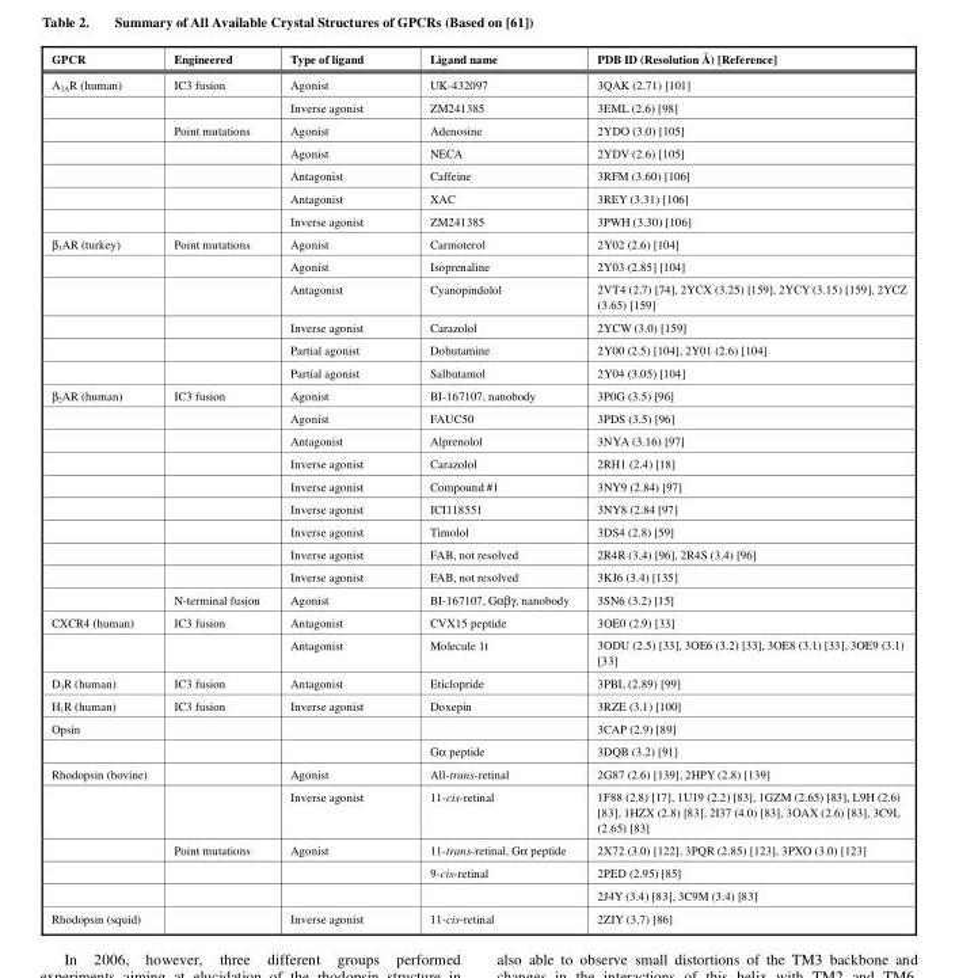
<table><thead><tr><td>GPCR</td><td>Engineered</td><td>Type of ligand</td><td>Ligand name</td><td>PDB ID (Resolution Å) [Reference]</td></tr></thead><tbody><tr><td rowspan="7">A<sub>2A</sub>R (human)</td><td>IC3 fusion</td><td>Agonist</td><td>UK-432097</td><td>3QAK (2.71) [101]</td></tr><tr><td></td><td>Inverse agonist</td><td>ZM241385</td><td>3EML (2.6) [98]</td></tr><tr><td>Point mutations</td><td>Agonist</td><td>Adenosine</td><td>2YDO (3.0) [105]</td></tr><tr><td></td><td>Agonist</td><td>NECA</td><td>2YDV (2.6) [105]</td></tr><tr><td></td><td>Antagonist</td><td>Caffeine</td><td>3RFM (3.60) [106]</td></tr><tr><td></td><td>Antagonist</td><td>XAC</td><td>3REY (3.31) [106]</td></tr><tr><td></td><td>Inverse agonist</td><td>ZM241385</td><td>3PWH (3.30) [106]</td></tr><tr><td rowspan="6">β<sub>1</sub>AR (turkey)</td><td>Point mutations</td><td>Agonist</td><td>Carmoterol</td><td>2Y02 (2.6) [104]</td></tr><tr><td></td><td>Agonist</td><td>Isoprenaline</td><td>2Y03 (2.85] [104]</td></tr><tr><td></td><td>Antagonist</td><td>Cyanopindolol</td><td>2VT4 (2.7) [74], 2YCX (3.25) [159], 2YCY (3.15) [159], 2YCZ (3.65) [159]</td></tr><tr><td></td><td>Inverse agonist</td><td>Carazolol</td><td>2YCW (3.0) [159]</td></tr><tr><td></td><td>Partial agonist</td><td>Dobutamine</td><td>2Y00 (2.5) [104], 2Y01 (2.6) [104]</td></tr><tr><td></td><td>Partial agonist</td><td>Salbutamol</td><td>2Y04 (3.05) [104]</td></tr><tr><td rowspan="10">β<sub>2</sub>AR (human)</td><td>IC3 fusion</td><td>Agonist</td><td>BI-167107, nanobody</td><td>3P0G (3.5) [96]</td></tr><tr><td></td><td>Agonist</td><td>FAUC50</td><td>3PDS (3.5) [96]</td></tr><tr><td></td><td>Antagonist</td><td>Alprenolol</td><td>3NYA (3.16) [97]</td></tr><tr><td></td><td>Inverse agonist</td><td>Carazolol</td><td>2RH1 (2.4) [18]</td></tr><tr><td></td><td>Inverse agonist</td><td>Compound #1</td><td>3NY9 (2.84) [97]</td></tr><tr><td></td><td>Inverse agonist</td><td>ICI118551</td><td>3NY8 (2.84 [97]</td></tr><tr><td></td><td>Inverse agonist</td><td>Timolol</td><td>3DS4 (2.8) [59]</td></tr><tr><td></td><td>Inverse agonist</td><td>FAB, not resolved</td><td>2R4R (3,4) [96], 2R4S (3.4) [96]</td></tr><tr><td></td><td>Inverse agonist</td><td>FAB, not resolved</td><td>3KJ6 (3.4) [135]</td></tr><tr><td>N-terminal fusion</td><td>Agonist</td><td>BI-167107, Gαβγ, nanobody</td><td>3SN6 (3.2) [15]</td></tr><tr><td rowspan="2">CXCR4 (human)</td><td>IC3 fusion</td><td>Antagonist</td><td>CVX15 peptide</td><td>3OE0 (2.9) [33]</td></tr><tr><td></td><td>Antagonist</td><td>Molecule 1t</td><td>3ODU (2.5) [33], 3OE6 (3.2) [33], 3OE8 (3.1) [33], 3OE9 (3.1) [33]</td></tr><tr><td>D<sub>3</sub>R (human)</td><td>IC3 fusion</td><td>Antagonist</td><td>Eticlopride</td><td>3PBL (2.89) [99]</td></tr><tr><td>H<sub>1</sub>R (human)</td><td>IC3 fusion</td><td>Inverse agonist</td><td>Doxepin</td><td>3RZE (3.1) [100]</td></tr><tr><td rowspan="2">Opsin</td><td></td><td></td><td></td><td>3CAP (2.9) [89]</td></tr><tr><td></td><td></td><td>Gα peptide</td><td>3DQB (3.2) [91]</td></tr><tr><td rowspan="5">Rhodopsin (bovine)</td><td></td><td>Agonist</td><td>All-trans-retinal</td><td>2G87 (2.6) [139], 2HPY (2.8) [139]</td></tr><tr><td></td><td>Inverse agonist</td><td>11-cis-retinal</td><td>1F88 (2.8) [17], 1U19 (2.2) [83], 1GZM (2.65) [83], L9H (2.6) [83], 1HZX (2.8) [83], 2I37 (4.0) [83], 3OAX (2.6) [83], 3C9L (2.65) [83]</td></tr><tr><td>Point mutations</td><td>Agonist</td><td>11-trans-retinal, Ga peptide</td><td>2X72 (3.0) [122], 3PQR (2.85) [123], 3PXO (3.0) [123]</td></tr><tr><td></td><td></td><td>9-cis-retinal</td><td>2PED (2.95) [85]</td></tr><tr><td></td><td></td><td></td><td>2J4Y (3.4) [83], 3C9M (3.4) [83]</td></tr><tr><td>Rhodopsin (squid)</td><td></td><td>Inverse agonist</td><td>11-cis-retinal</td><td>2ZIY (3.7) [86]</td></tr></tbody></table>